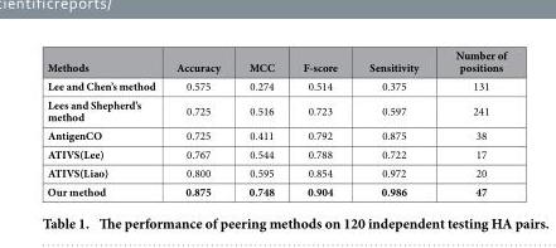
<table><thead><tr><td>Methods</td><td>Accuracy</td><td>MCC</td><td>F-score</td><td>Sensitivity</td><td>Number of positions</td></tr></thead><tbody><tr><td>Lee and Chen’s method</td><td>0.575</td><td>0.274</td><td>0.514</td><td>0.375</td><td>131</td></tr><tr><td>Lees and Shepherd’s method</td><td>0.725</td><td>0.516</td><td>0.723</td><td>0.597</td><td>241</td></tr><tr><td>AntigenCO</td><td>0.725</td><td>0.411</td><td>0.792</td><td>0.875</td><td>38</td></tr><tr><td>ATIVS(Lee)</td><td>0.767</td><td>0.544</td><td>0.788</td><td>0.722</td><td>17</td></tr><tr><td>ATIVS(Liao)</td><td>0.800</td><td>0.595</td><td>0.854</td><td>0.972</td><td>20</td></tr><tr><td>Our method</td><td>0.875</td><td>0.748</td><td>0.904</td><td>0.986</td><td>47</td></tr></tbody></table>